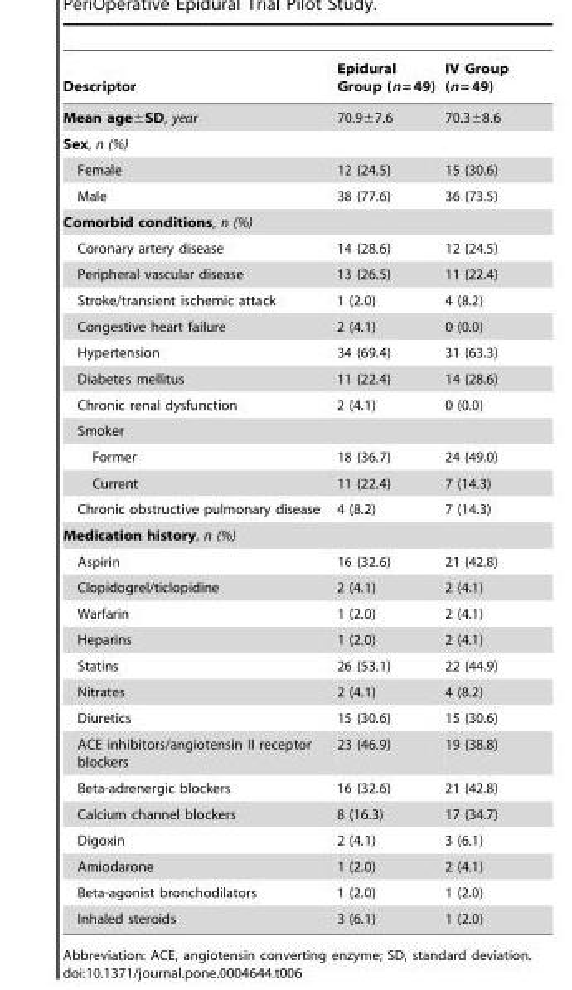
<table><thead><tr><td>Descriptor</td><td>Epidural Group (n = 49)</td><td>IV Group (n = 49)</td></tr></thead><tbody><tr><td>Mean age±SD, year</td><td>70.9±7.6</td><td>70.3±8.6</td></tr><tr><td colspan="3">Sex, n (%)</td></tr><tr><td>Female</td><td>12 (24.5)</td><td>15 (30.6)</td></tr><tr><td>Male</td><td>38 (77.6)</td><td>36 (73.5)</td></tr><tr><td colspan="3">Comorbid conditions, n (%)</td></tr><tr><td>Coronary artery disease</td><td>14 (28.6)</td><td>12 (24.5)</td></tr><tr><td>Peripheral vascular disease</td><td>13 (26.5)</td><td>11 (22.4)</td></tr><tr><td>Stroke/transient ischemic attack</td><td>1 (2.0)</td><td>4 (8.2)</td></tr><tr><td>Congestive heart failure</td><td>2 (4.1)</td><td>0 (0.0)</td></tr><tr><td>Hypertension</td><td>34 (69.4)</td><td>31 (63.3)</td></tr><tr><td>Diabetes mellitus</td><td>11 (22.4)</td><td>14 (28.6)</td></tr><tr><td>Chronic renal dysfunction</td><td>2 (4.1)</td><td>0 (0.0)</td></tr><tr><td colspan="3">Smoker</td></tr><tr><td>Former</td><td>18 (36.7)</td><td>24 (49.0)</td></tr><tr><td>Current</td><td>11 (22.4)</td><td>7 (14.3)</td></tr><tr><td>Chronic obstructive pulmonary disease</td><td>4 (8.2)</td><td>7 (14.3)</td></tr><tr><td colspan="3">Medication history, n (%)</td></tr><tr><td>Aspirin</td><td>16 (32.6)</td><td>21 (42.8)</td></tr><tr><td>Clopidogrel/ticlopidine</td><td>2 (4.1)</td><td>2 (4.1)</td></tr><tr><td>Warfarin</td><td>1 (2.0)</td><td>2 (4.1)</td></tr><tr><td>Heparins</td><td>1 (2.0)</td><td>2 (4.1)</td></tr><tr><td>Statins</td><td>26 (53.1)</td><td>22 (44.9)</td></tr><tr><td>Nitrates</td><td>2 (4.1)</td><td>4 (8.2)</td></tr><tr><td>Diuretics</td><td>15 (30.6)</td><td>15 (30.6)</td></tr><tr><td>ACE inhibitors/angiotensin II receptor blockers</td><td>23 (46.9)</td><td>19 (38.8)</td></tr><tr><td>Beta-adrenergic blockers</td><td>16 (32.6)</td><td>21 (42.8)</td></tr><tr><td>Calcium channel blockers</td><td>8 (16.3)</td><td>17 (34.7)</td></tr><tr><td>Digoxin</td><td>2 (4.1)</td><td>3 (6.1)</td></tr><tr><td>Amiodarone</td><td>1 (2.0)</td><td>2 (4.1)</td></tr><tr><td>Beta-agonist bronchodilators</td><td>1 (2.0)</td><td>1 (2.0)</td></tr><tr><td>Inhaled steroids</td><td>3 (6.1)</td><td>1 (2.0)</td></tr></tbody></table>